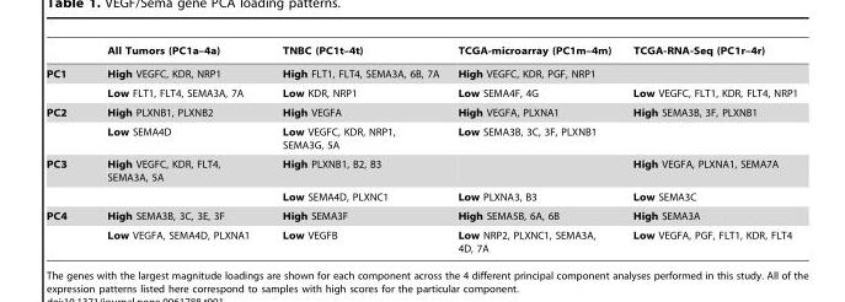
<table><thead><tr><td></td><td>All Tumors (PC1a–4a)</td><td>TNBC (PC1t–4t)</td><td>TCGA-microarray (PC1m–4m)</td><td>TCGA-RNA-Seq (PC1r–4r)</td></tr></thead><tbody><tr><td rowspan="2">PC1</td><td>High VEGFC, KDR, NRP1</td><td>High FLT1, FLT4, SEMA3A, 6B, 7A</td><td>High VEGFC, KDR, PGF, NRP1</td><td></td></tr><tr><td>Low FLT1, FLT4, SEMA3A, 7A</td><td>Low KDR, NRP1</td><td>Low SEMA4F, 4G</td><td>Low VEGFC, FLT1, KDR, FLT4, NRP1</td></tr><tr><td rowspan="2">PC2</td><td>High PLXNB1, PLXNB2</td><td>High VEGFA</td><td>High VEGFA, PLXNA1</td><td>High SEMA3B, 3F, PLXNB1</td></tr><tr><td>Low SEMA4D</td><td>Low VEGFC, KDR, NRP1, SEMA3G, 5A</td><td>Low SEMA3B, 3C, 3F, PLXNB1</td><td></td></tr><tr><td rowspan="2">PC3</td><td>High VEGFC, KDR, FLT4, SEMA3A, 5A</td><td>High PLXNB1, B2, B3</td><td></td><td>High VEGFA, PLXNA1, SEMA7A</td></tr><tr><td></td><td>Low SEMA4D, PLXNC1</td><td>Low PLXNA3, B3</td><td>Low SEMA3C</td></tr><tr><td rowspan="2">PC4</td><td>High SEMA3B, 3C, 3E, 3F</td><td>High SEMA3F</td><td>High SEMA5B, 6A, 6B</td><td>High SEMA3A</td></tr><tr><td>Low VEGFA, SEMA4D, PLXNA1</td><td>Low VEGFB</td><td>Low NRP2, PLXNC1, SEMA3A, 4D, 7A</td><td>Low VEGFA, PGF, FLT1, KDR, FLT4</td></tr></tbody></table>